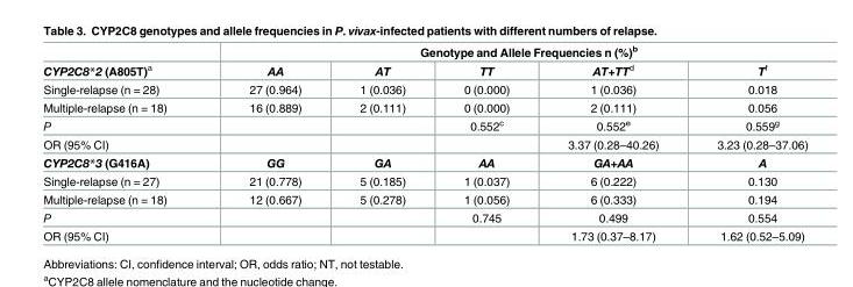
<table><thead><tr><td rowspan="2">CYP2C8*2 (A805T)<sup>a</sup></td><td colspan="5">Genotype and Allele Frequencies n (%)<sup>b</sup></td></tr><tr><td>AA</td><td>AT</td><td>TT</td><td>AT+TT<sup>d</sup></td><td>T<sup>f</sup></td></tr></thead><tbody><tr><td>Single-relapse (n = 28)</td><td>27 (0.964)</td><td>1 (0.036)</td><td>0 (0.000)</td><td>1 (0.036)</td><td>0.018</td></tr><tr><td>Multiple-relapse (n = 18)</td><td>16 (0.889)</td><td>2 (0.111)</td><td>0 (0.000)</td><td>2 (0.111)</td><td>0.056</td></tr><tr><td>P</td><td></td><td></td><td>0.552<sup>c</sup></td><td>0.552<sup>e</sup></td><td>0.559<sup>g</sup></td></tr><tr><td>OR (95% CI)</td><td></td><td></td><td></td><td>3.37 (0.28–40.26)</td><td>3.23 (0.28–37.06)</td></tr><tr><td>CYP2C8*3 (G416A)</td><td>GG</td><td>GA</td><td>AA</td><td>GA+AA</td><td>A</td></tr><tr><td>Single-relapse (n = 27)</td><td>21 (0.778)</td><td>5 (0.185)</td><td>1 (0.037)</td><td>6 (0.222)</td><td>0.130</td></tr><tr><td>Multiple-relapse (n = 18)</td><td>12 (0.667)</td><td>5 (0.278)</td><td>1 (0.056)</td><td>6 (0.333)</td><td>0.194</td></tr><tr><td>P</td><td></td><td></td><td>0.745</td><td>0.499</td><td>0.554</td></tr><tr><td>OR (95% CI)</td><td></td><td></td><td></td><td>1.73 (0.37–8.17)</td><td>1.62 (0.52–5.09)</td></tr></tbody></table>